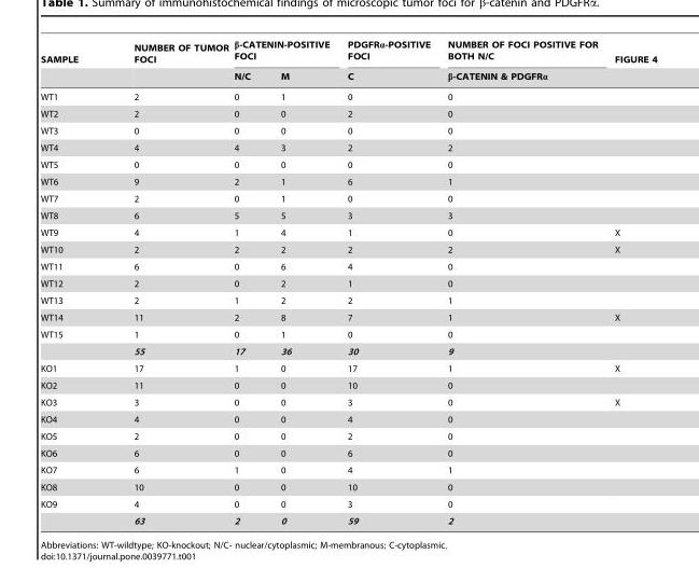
<table><thead><tr><td rowspan="2">SAMPLE</td><td rowspan="2">NUMBER OF TUMOR FOCI</td><td colspan="2">β-CATENIN-POSITIVE FOCI</td><td rowspan="2">PDGFRα-POSITIVE FOCI C</td><td rowspan="2">NUMBER OF FOCI POSITIVE FOR BOTH N/C β-CATENIN &amp; PDGFRα</td><td rowspan="2">FIGURE 4</td></tr><tr><td>N/C</td><td>M</td></tr></thead><tbody><tr><td>WT1</td><td>2</td><td>0</td><td>1</td><td>0</td><td>0</td><td></td></tr><tr><td>WT2</td><td>2</td><td>0</td><td>0</td><td>2</td><td>0</td><td></td></tr><tr><td>WT3</td><td>0</td><td>0</td><td>0</td><td>0</td><td>0</td><td></td></tr><tr><td>WT4</td><td>4</td><td>4</td><td>3</td><td>2</td><td>2</td><td></td></tr><tr><td>WT5</td><td>0</td><td>0</td><td>0</td><td>0</td><td>0</td><td></td></tr><tr><td>WT6</td><td>9</td><td>2</td><td>1</td><td>6</td><td>1</td><td></td></tr><tr><td>WT7</td><td>2</td><td>0</td><td>1</td><td>0</td><td>0</td><td></td></tr><tr><td>WT8</td><td>6</td><td>5</td><td>5</td><td>3</td><td>3</td><td></td></tr><tr><td>WT9</td><td>4</td><td>1</td><td>4</td><td>1</td><td>0</td><td>X</td></tr><tr><td>WT10</td><td>2</td><td>2</td><td>2</td><td>2</td><td>2</td><td>X</td></tr><tr><td>WT11</td><td>6</td><td>0</td><td>6</td><td>4</td><td>0</td><td></td></tr><tr><td>WT12</td><td>2</td><td>0</td><td>2</td><td>1</td><td>0</td><td></td></tr><tr><td>WT13</td><td>2</td><td>1</td><td>2</td><td>2</td><td>1</td><td></td></tr><tr><td>WT14</td><td>11</td><td>2</td><td>8</td><td>7</td><td>1</td><td>X</td></tr><tr><td rowspan="2">WT15</td><td>1</td><td>0</td><td>1</td><td>0</td><td>0</td><td></td></tr><tr><td>55</td><td>17</td><td>36</td><td>30</td><td>9</td><td></td></tr><tr><td>KO1</td><td>17</td><td>1</td><td>0</td><td>17</td><td>1</td><td>X</td></tr><tr><td>KO2</td><td>11</td><td>0</td><td>0</td><td>10</td><td>0</td><td></td></tr><tr><td>KO3</td><td>3</td><td>0</td><td>0</td><td>3</td><td>0</td><td>X</td></tr><tr><td>KO4</td><td>4</td><td>0</td><td>0</td><td>4</td><td>0</td><td></td></tr><tr><td>KO5</td><td>2</td><td>0</td><td>0</td><td>2</td><td>0</td><td></td></tr><tr><td>KO6</td><td>6</td><td>0</td><td>0</td><td>6</td><td>0</td><td></td></tr><tr><td>KO7</td><td>6</td><td>1</td><td>0</td><td>4</td><td>1</td><td></td></tr><tr><td>KO8</td><td>10</td><td>0</td><td>0</td><td>10</td><td>0</td><td></td></tr><tr><td rowspan="2">KO9</td><td>4</td><td>0</td><td>0</td><td>3</td><td>0</td><td></td></tr><tr><td>63</td><td>2</td><td>0</td><td>59</td><td>2</td><td></td></tr></tbody></table>